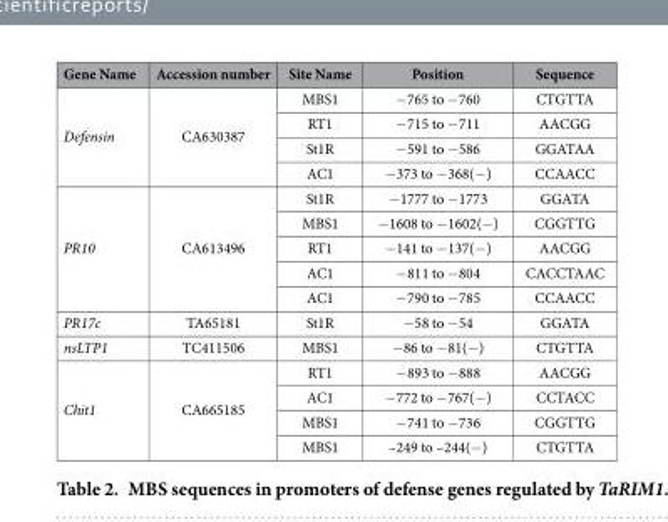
<table><thead><tr><td>Gene Name</td><td>Accession number</td><td>Site Name</td><td>Position</td><td>Sequence</td></tr></thead><tbody><tr><td rowspan="4">Defensin</td><td rowspan="4">CA630387</td><td>MBS1</td><td>− 765 to − 760</td><td>CTGTTA</td></tr><tr><td>RT1</td><td>− 715 to − 711</td><td>AACGG</td></tr><tr><td>St1R</td><td>− 591 to − 586</td><td>GGATAA</td></tr><tr><td>AC1</td><td>− 373 to − 368(− )</td><td>CCAACC</td></tr><tr><td rowspan="5">PR10</td><td rowspan="5">CA613496</td><td>St1R</td><td>− 1777 to − 1773</td><td>GGATA</td></tr><tr><td>MBS1</td><td>− 1608 to − 1602(− )</td><td>CGGTTG</td></tr><tr><td>RT1</td><td>− 141 to − 137(− )</td><td>AACGG</td></tr><tr><td>AC1</td><td>− 811 to − 804</td><td>CACCTAAC</td></tr><tr><td>AC1</td><td>− 790 to − 785</td><td>CCAACC</td></tr><tr><td>PR17c</td><td>TA65181</td><td>St1R</td><td>− 58 to − 54</td><td>GGATA</td></tr><tr><td>nsLTP1</td><td>TC411506</td><td>MBS1</td><td>− 86 to − 81(− )</td><td>CTGTTA</td></tr><tr><td rowspan="4">Chit1</td><td rowspan="4">CA665185</td><td>RT1</td><td>− 893 to − 888</td><td>AACGG</td></tr><tr><td>AC1</td><td>− 772 to − 767(− )</td><td>CCTACC</td></tr><tr><td>MBS1</td><td>− 741 to − 736</td><td>CGGTTG</td></tr><tr><td>MBS1</td><td>–249 to –244(− )</td><td>CTGTTA</td></tr></tbody></table>